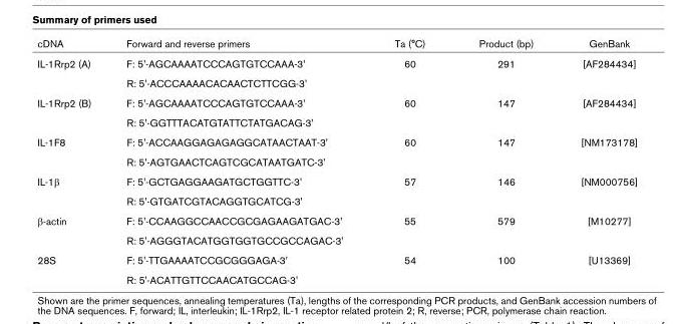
<table><thead><tr><td>cDNA</td><td>Forward and reverse primers</td><td>Ta (°C)</td><td>Product (bp)</td><td>GenBank</td></tr></thead><tbody><tr><td rowspan="2">IL-1Rrp2 (A)</td><td>F: 5&#x27;-AGCAAAATCCCAGTGTCCAAA-3&#x27;</td><td>60</td><td>291</td><td>[AF284434]</td></tr><tr><td>R: 5&#x27;-ACCCAAAACACAACTCTTCGG-3&#x27;</td><td></td><td></td><td></td></tr><tr><td rowspan="2">IL-1Rrp2 (B)</td><td>F: 5&#x27;-AGCAAAATCCCAGTGTCCAAA-3&#x27;</td><td>60</td><td>147</td><td>[AF284434]</td></tr><tr><td>R: 5&#x27;-GGTTTACATGTATTCTATGACAG-3&#x27;</td><td></td><td></td><td></td></tr><tr><td rowspan="2">IL-1F8</td><td>F: 5&#x27;-ACCAAGGAGAGAGGCATAACTAAT-3&#x27;</td><td>60</td><td>147</td><td>[NM173178]</td></tr><tr><td>R: 5&#x27;-AGTGAACTCAGTCGCATAATGATC-3&#x27;</td><td></td><td></td><td></td></tr><tr><td rowspan="2">IL-1β</td><td>F: 5&#x27;-GCTGAGGAAGATGCTGGTTC-3&#x27;</td><td>57</td><td>146</td><td>[NM000756]</td></tr><tr><td>R: 5&#x27;-GTGATCGTACAGGTGCATCG-3&#x27;</td><td></td><td></td><td></td></tr><tr><td rowspan="2">β-actin</td><td>F: 5&#x27;-CCAAGGCCAACCGCGAGAAGATGAC-3&#x27;</td><td>55</td><td>579</td><td>[M10277]</td></tr><tr><td>R: 5&#x27;-AGGGTACATGGTGGTGCCGCCAGAC-3&#x27;</td><td></td><td></td><td></td></tr><tr><td rowspan="2">28S</td><td>F: 5&#x27;-TTGAAAATCCGCGGGAGA-3&#x27;</td><td>54</td><td>100</td><td>[U13369]</td></tr><tr><td>R: 5&#x27;-ACATTGTTCCAACATGCCAG-3&#x27;</td><td></td><td></td><td></td></tr></tbody></table>